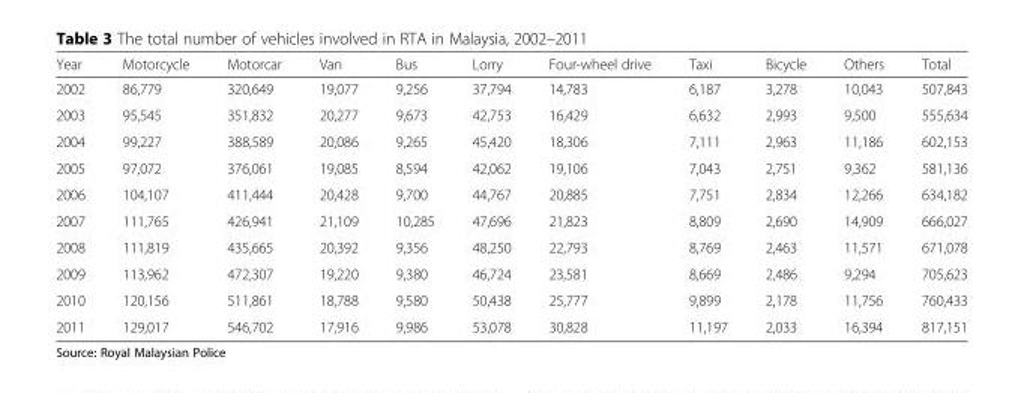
<table><thead><tr><td>Year</td><td>Motorcycle</td><td>Motorcar</td><td>Van</td><td>Bus</td><td>Lorry</td><td>Four-wheel drive</td><td>Taxi</td><td>Bicycle</td><td>Others</td><td>Total</td></tr></thead><tbody><tr><td>2002</td><td>86,779</td><td>320,649</td><td>19,077</td><td>9,256</td><td>37,794</td><td>14,783</td><td>6,187</td><td>3,278</td><td>10,043</td><td>507,843</td></tr><tr><td>2003</td><td>95,545</td><td>351,832</td><td>20,277</td><td>9,673</td><td>42,753</td><td>16,429</td><td>6,632</td><td>2,993</td><td>9,500</td><td>555,634</td></tr><tr><td>2004</td><td>99,227</td><td>388,589</td><td>20,086</td><td>9,265</td><td>45,420</td><td>18,306</td><td>7,111</td><td>2,963</td><td>11,186</td><td>602,153</td></tr><tr><td>2005</td><td>97,072</td><td>376,061</td><td>19,085</td><td>8,594</td><td>42,062</td><td>19,106</td><td>7,043</td><td>2,751</td><td>9,362</td><td>581,136</td></tr><tr><td>2006</td><td>104,107</td><td>411,444</td><td>20,428</td><td>9,700</td><td>44,767</td><td>20,885</td><td>7,751</td><td>2,834</td><td>12,266</td><td>634,182</td></tr><tr><td>2007</td><td>111,765</td><td>426,941</td><td>21,109</td><td>10,285</td><td>47,696</td><td>21,823</td><td>8,809</td><td>2,690</td><td>14,909</td><td>666,027</td></tr><tr><td>2008</td><td>111,819</td><td>435,665</td><td>20,392</td><td>9,356</td><td>48,250</td><td>22,793</td><td>8,769</td><td>2,463</td><td>11,571</td><td>671,078</td></tr><tr><td>2009</td><td>113,962</td><td>472,307</td><td>19,220</td><td>9,380</td><td>46,724</td><td>23,581</td><td>8,669</td><td>2,486</td><td>9,294</td><td>705,623</td></tr><tr><td>2010</td><td>120,156</td><td>511,861</td><td>18,788</td><td>9,580</td><td>50,438</td><td>25,777</td><td>9,899</td><td>2,178</td><td>11,756</td><td>760,433</td></tr><tr><td>2011</td><td>129,017</td><td>546,702</td><td>17,916</td><td>9,986</td><td>53,078</td><td>30,828</td><td>11,197</td><td>2,033</td><td>16,394</td><td>817,151</td></tr></tbody></table>